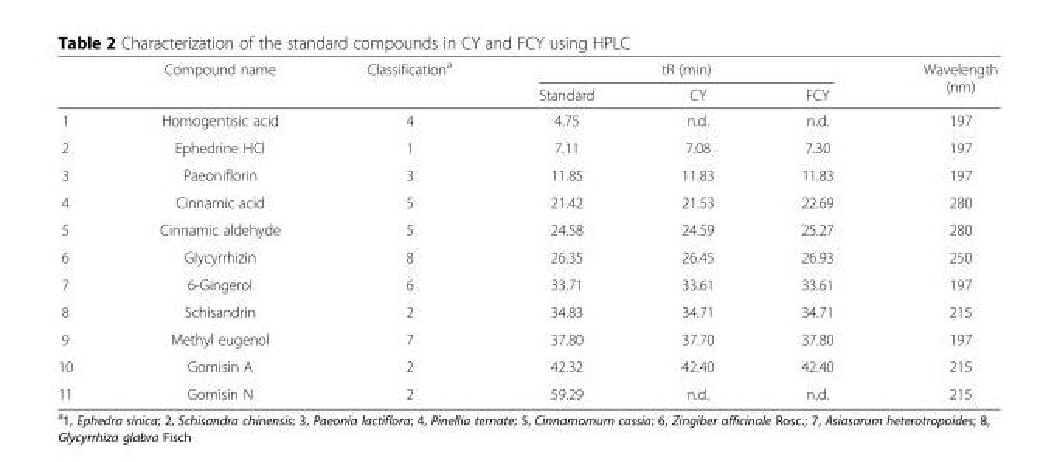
<table><thead><tr><td rowspan="2"></td><td rowspan="2">Compound name</td><td rowspan="2">Classification<sup>a</sup></td><td colspan="3">tR (min)</td><td rowspan="2">Wavelength (nm)</td></tr><tr><td>Standard</td><td>CY</td><td>FCY</td></tr></thead><tbody><tr><td>1</td><td>Homogentisic acid</td><td>4</td><td>4.75</td><td>n.d.</td><td>n.d.</td><td>197</td></tr><tr><td>2</td><td>Ephedrine HCl</td><td>1</td><td>7.11</td><td>7.08</td><td>7.30</td><td>197</td></tr><tr><td>3</td><td>Paeoniflorin</td><td>3</td><td>11.85</td><td>11.83</td><td>11.83</td><td>197</td></tr><tr><td>4</td><td>Cinnamic acid</td><td>5</td><td>21.42</td><td>21.53</td><td>22.69</td><td>280</td></tr><tr><td>5</td><td>Cinnamic aldehyde</td><td>5</td><td>24.58</td><td>24.59</td><td>25.27</td><td>280</td></tr><tr><td>6</td><td>Glycyrrhizin</td><td>8</td><td>26.35</td><td>26.45</td><td>26.93</td><td>250</td></tr><tr><td>7</td><td>6-Gingerol</td><td>6</td><td>33.71</td><td>33.61</td><td>33.61</td><td>197</td></tr><tr><td>8</td><td>Schisandrin</td><td>2</td><td>34.83</td><td>34.71</td><td>34.71</td><td>215</td></tr><tr><td>9</td><td>Methyl eugenol</td><td>7</td><td>37.80</td><td>37.70</td><td>37.80</td><td>197</td></tr><tr><td>10</td><td>Gomisin A</td><td>2</td><td>42.32</td><td>42.40</td><td>42.40</td><td>215</td></tr><tr><td>11</td><td>Gomisin N</td><td>2</td><td>59.29</td><td>n.d.</td><td>n.d.</td><td>215</td></tr></tbody></table>